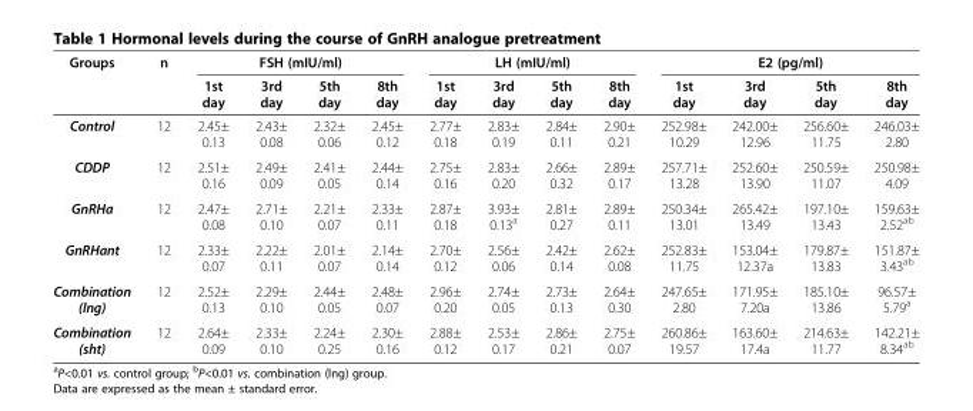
<table><thead><tr><td rowspan="2">Groups</td><td rowspan="2">n</td><td colspan="4">FSH (mIU/ml)</td><td colspan="4">LH (mIU/ml)</td><td colspan="4">E2 (pg/ml)</td></tr><tr><td>1st day</td><td>3rd day</td><td>5th day</td><td>8th day</td><td>1st day</td><td>3rd day</td><td>5th day</td><td>8th day</td><td>1st day</td><td>3rd day</td><td>5th day</td><td>8th day</td></tr></thead><tbody><tr><td>Control</td><td>12</td><td>2.45± 0.13</td><td>2.43± 0.08</td><td>2.32± 0.06</td><td>2.45± 0.12</td><td>2.77± 0.18</td><td>2.83± 0.19</td><td>2.84± 0.11</td><td>2.90± 0.21</td><td>252.98± 10.29</td><td>242.00± 12.96</td><td>256.60± 11.75</td><td>246.03± 2.80</td></tr><tr><td>CDDP</td><td>12</td><td>2.51± 0.16</td><td>2.49± 0.09</td><td>2.41± 0.05</td><td>2.44± 0.14</td><td>2.75± 0.16</td><td>2.83± 0.20</td><td>2.66± 0.32</td><td>2.89± 0.17</td><td>257.71± 13.28</td><td>252.60± 13.90</td><td>250.59± 11.07</td><td>250.98± 4.09</td></tr><tr><td>GnRHa</td><td>12</td><td>2.47± 0.08</td><td>2.71± 0.10</td><td>2.21± 0.07</td><td>2.33± 0.11</td><td>2.87± 0.18</td><td>3.93± 0.13<sup>a</sup></td><td>2.81± 0.27</td><td>2.89± 0.11</td><td>250.34± 13.01</td><td>265.42± 13.49</td><td>197.10± 13.43</td><td>159.63± 2.52<sup>ab</sup></td></tr><tr><td>GnRHant</td><td>12</td><td>2.33± 0.07</td><td>2.22± 0.11</td><td>2.01± 0.07</td><td>2.14± 0.14</td><td>2.70± 0.12</td><td>2.56± 0.06</td><td>2.42± 0.14</td><td>2.62± 0.08</td><td>252.83± 11.75</td><td>153.04± 12.37a</td><td>179.87± 13.83</td><td>151.87± 3.43<sup>ab</sup></td></tr><tr><td>Combination (lng)</td><td>12</td><td>2.52± 0.13</td><td>2.29± 0.10</td><td>2.44± 0.05</td><td>2.48± 0.07</td><td>2.96± 0.20</td><td>2.74± 0.05</td><td>2.73± 0.13</td><td>2.64± 0.30</td><td>247.65± 2.80</td><td>171.95± 7.20a</td><td>185.10± 13.86</td><td>96.57± 5.79<sup>a</sup></td></tr><tr><td>Combination (sht)</td><td>12</td><td>2.64± 0.09</td><td>2.33± 0.10</td><td>2.24± 0.25</td><td>2.30± 0.16</td><td>2.88± 0.12</td><td>2.53± 0.17</td><td>2.86± 0.21</td><td>2.75± 0.07</td><td>260.86± 19.57</td><td>163.60± 17.4a</td><td>214.63± 11.77</td><td>142.21± 8.34<sup>ab</sup></td></tr></tbody></table>